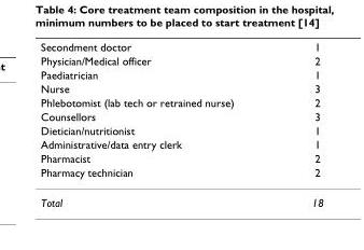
<table><thead><tr><td rowspan="10">Secondment doctor Physician/Medical officer Paediatrician Nurse Phlebotomist (lab tech or retrained nurse) Counsellors Dietician/nutritionist Administrative/data entry clerk Pharmacist Pharmacy technician</td><td rowspan="10">1 2 1 3 2 3 1 1 2 2</td></tr><tr></tr><tr></tr><tr></tr><tr></tr><tr></tr><tr></tr><tr></tr><tr></tr><tr></tr></thead><tbody><tr><td>Total</td><td>18</td></tr></tbody></table>